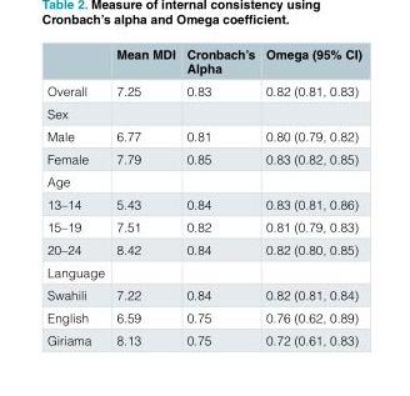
<table><thead><tr><td></td><td>Mean MDI</td><td>Cronbach’s Alpha</td><td>Omega (95% CI)</td></tr></thead><tbody><tr><td>Overall</td><td>7.25</td><td>0.83</td><td>0.82 (0.81, 0.83)</td></tr><tr><td colspan="4">Sex</td></tr><tr><td>Male</td><td>6.77</td><td>0.81</td><td>0.80 (0.79, 0.82)</td></tr><tr><td>Female</td><td>7.79</td><td>0.85</td><td>0.83 (0.82, 0.85)</td></tr><tr><td colspan="4">Age</td></tr><tr><td>13–14</td><td>5.43</td><td>0.84</td><td>0.83 (0.81, 0.86)</td></tr><tr><td>15–19</td><td>7.51</td><td>0.82</td><td>0.81 (0.79, 0.83)</td></tr><tr><td>20–24</td><td>8.42</td><td>0.84</td><td>0.82 (0.80, 0.85)</td></tr><tr><td colspan="4">Language</td></tr><tr><td>Swahili</td><td>7.22</td><td>0.84</td><td>0.82 (0.81, 0.84)</td></tr><tr><td>English</td><td>6.59</td><td>0.75</td><td>0.76 (0.62, 0.89)</td></tr><tr><td>Giriama</td><td>8.13</td><td>0.75</td><td>0.72 (0.61, 0.83)</td></tr></tbody></table>